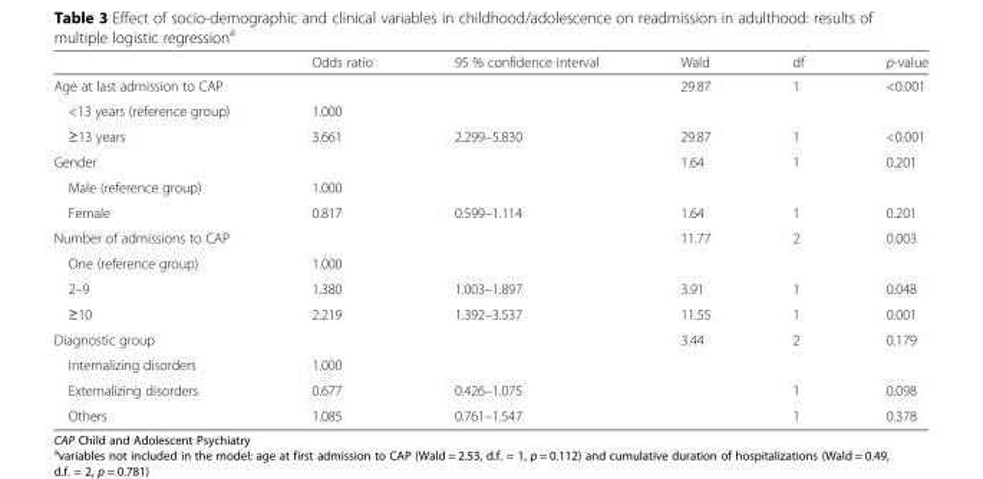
<table><thead><tr><td></td><td>Odds ratio</td><td>95 % confidence interval</td><td>Wald</td><td>df</td><td>p-value</td></tr></thead><tbody><tr><td>Age at last admission to CAP</td><td></td><td></td><td>29.87</td><td>1</td><td>&lt;0.001</td></tr><tr><td>&lt;13 years (reference group)</td><td>1.000</td><td></td><td></td><td></td><td></td></tr><tr><td>≥13 years</td><td>3.661</td><td>2.299–5.830</td><td>29.87</td><td>1</td><td>&lt;0.001</td></tr><tr><td>Gender</td><td></td><td></td><td>1.64</td><td>1</td><td>0.201</td></tr><tr><td>Male (reference group)</td><td>1.000</td><td></td><td></td><td></td><td></td></tr><tr><td>Female</td><td>0.817</td><td>0.599–1.114</td><td>1.64</td><td>1</td><td>0.201</td></tr><tr><td>Number of admissions to CAP</td><td></td><td></td><td>11.77</td><td>2</td><td>0.003</td></tr><tr><td>One (reference group)</td><td>1.000</td><td></td><td></td><td></td><td></td></tr><tr><td>2–9</td><td>1.380</td><td>1.003–1.897</td><td>3.91</td><td>1</td><td>0.048</td></tr><tr><td>≥10</td><td>2.219</td><td>1.392–3.537</td><td>11.55</td><td>1</td><td>0.001</td></tr><tr><td>Diagnostic group</td><td></td><td></td><td>3.44</td><td>2</td><td>0.179</td></tr><tr><td>Internalizing disorders</td><td>1.000</td><td></td><td></td><td></td><td></td></tr><tr><td>Externalizing disorders</td><td>0.677</td><td>0.426–1.075</td><td></td><td>1</td><td>0.098</td></tr><tr><td>Others</td><td>1.085</td><td>0.761–1.547</td><td></td><td>1</td><td>0.378</td></tr></tbody></table>